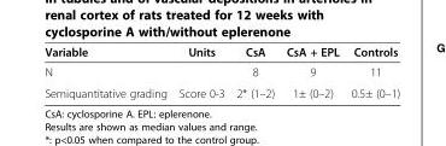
<table><thead><tr><td>Variable</td><td>Units</td><td>CsA</td><td>CsA + EPL</td><td>Controls</td></tr></thead><tbody><tr><td>N</td><td></td><td>8</td><td>9</td><td>11</td></tr><tr><td>Semiquantitative grading</td><td>Score 0-3</td><td>2* (1–2)</td><td>1± (0–2)</td><td>0.5± (0–1)</td></tr></tbody></table>